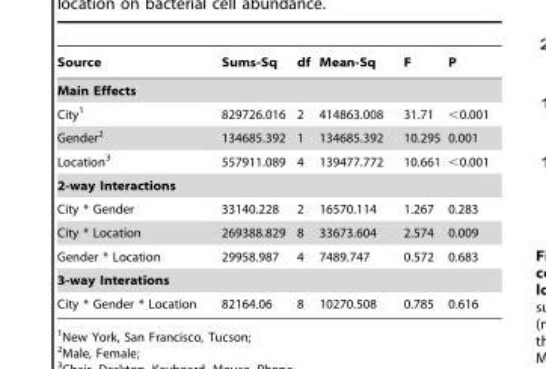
<table><thead><tr><td>Source</td><td>Sums-Sq</td><td>df</td><td>Mean-Sq</td><td>F</td><td>P</td></tr></thead><tbody><tr><td colspan="6">Main Effects</td></tr><tr><td>City<sup>1</sup></td><td>829726.016</td><td>2</td><td>414863.008</td><td>31.71</td><td>&lt;0.001</td></tr><tr><td>Gender<sup>2</sup></td><td>134685.392</td><td>1</td><td>134685.392</td><td>10.295</td><td>0.001</td></tr><tr><td>Location<sup>3</sup></td><td>557911.089</td><td>4</td><td>139477.772</td><td>10.661</td><td>&lt;0.001</td></tr><tr><td colspan="6">2-way Interactions</td></tr><tr><td>City * Gender</td><td>33140.228</td><td>2</td><td>16570.114</td><td>1.267</td><td>0.283</td></tr><tr><td>City * Location</td><td>269388.829</td><td>8</td><td>33673.604</td><td>2.574</td><td>0.009</td></tr><tr><td>Gender * Location</td><td>29958.987</td><td>4</td><td>7489.747</td><td>0.572</td><td>0.683</td></tr><tr><td colspan="6">3-way Interations</td></tr><tr><td>City * Gender * Location</td><td>82164.06</td><td>8</td><td>10270.508</td><td>0.785</td><td>0.616</td></tr></tbody></table>